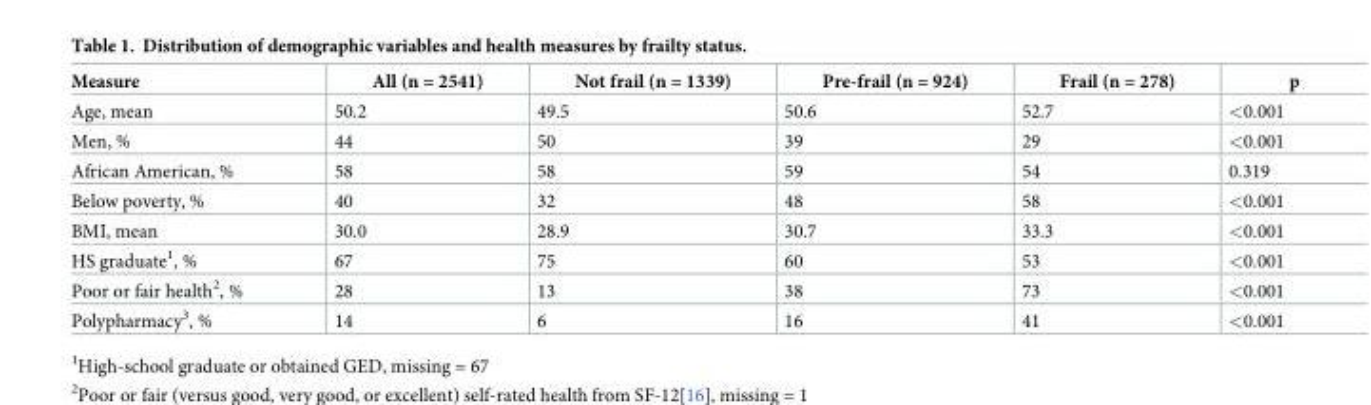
<table><thead><tr><td>Measure</td><td>All (n = 2541)</td><td>Not frail (n = 1339)</td><td>Pre-frail (n = 924)</td><td>Frail (n = 278)</td><td>p</td></tr></thead><tbody><tr><td>Age, mean</td><td>50.2</td><td>49.5</td><td>50.6</td><td>52.7</td><td>&lt;0.001</td></tr><tr><td>Men, %</td><td>44</td><td>50</td><td>39</td><td>29</td><td>&lt;0.001</td></tr><tr><td>African American, %</td><td>58</td><td>58</td><td>59</td><td>54</td><td>0.319</td></tr><tr><td>Below poverty, %</td><td>40</td><td>32</td><td>48</td><td>58</td><td>&lt;0.001</td></tr><tr><td>BMI, mean</td><td>30.0</td><td>28.9</td><td>30.7</td><td>33.3</td><td>&lt;0.001</td></tr><tr><td>HS graduate<sup>1</sup>, %</td><td>67</td><td>75</td><td>60</td><td>53</td><td>&lt;0.001</td></tr><tr><td>Poor or fair health<sup>2</sup>, %</td><td>28</td><td>13</td><td>38</td><td>73</td><td>&lt;0.001</td></tr><tr><td>Polypharmacy<sup>3</sup>, %</td><td>14</td><td>6</td><td>16</td><td>41</td><td>&lt;0.001</td></tr></tbody></table>